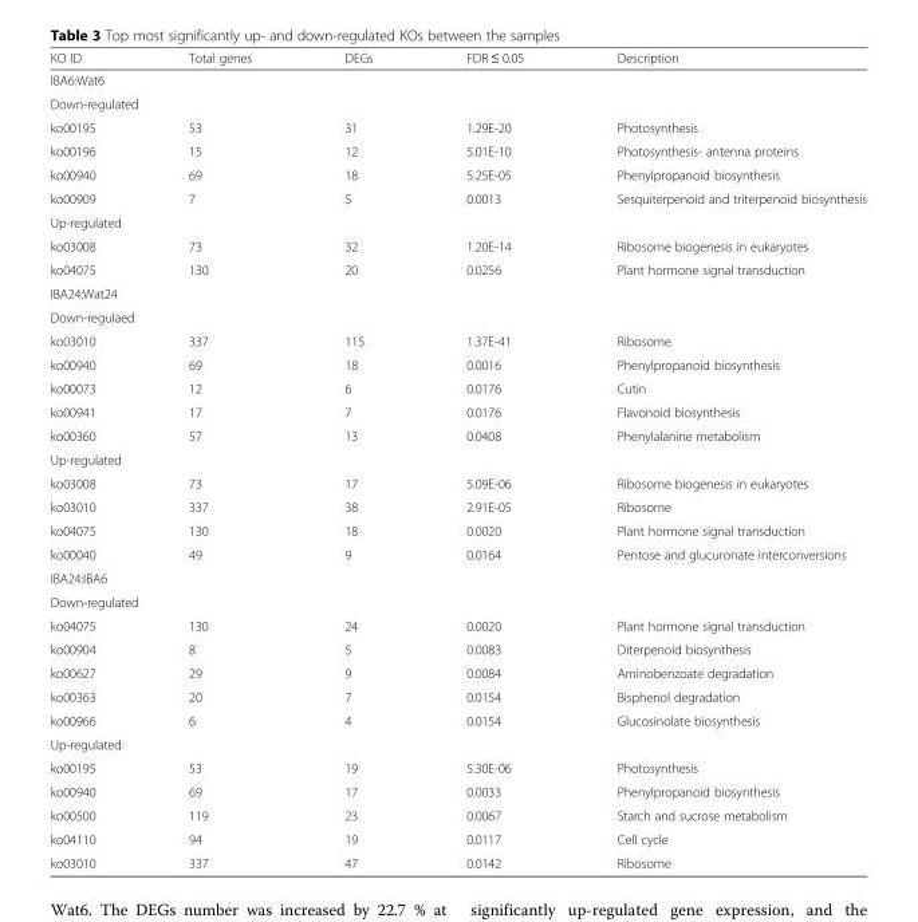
<table><thead><tr><td>KO ID</td><td>Total genes</td><td>DEGs</td><td>FDR ≤ 0.05</td><td>Description</td></tr></thead><tbody><tr><td colspan="5">IBA6:Wat6</td></tr><tr><td colspan="5">Down-regulated</td></tr><tr><td>ko00195</td><td>53</td><td>31</td><td>1.29E-20</td><td>Photosynthesis</td></tr><tr><td>ko00196</td><td>15</td><td>12</td><td>5.01E-10</td><td>Photosynthesis- antenna proteins</td></tr><tr><td>ko00940</td><td>69</td><td>18</td><td>5.25E-05</td><td>Phenylpropanoid biosynthesis</td></tr><tr><td>ko00909</td><td>7</td><td>5</td><td>0.0013</td><td>Sesquiterpenoid and triterpenoid biosynthesis</td></tr><tr><td colspan="5">Up-regulated</td></tr><tr><td>ko03008</td><td>73</td><td>32</td><td>1.20E-14</td><td>Ribosome biogenesis in eukaryotes</td></tr><tr><td>ko04075</td><td>130</td><td>20</td><td>0.0256</td><td>Plant hormone signal transduction</td></tr><tr><td colspan="5">IBA24:Wat24</td></tr><tr><td colspan="5">Down-regulaed</td></tr><tr><td>ko03010</td><td>337</td><td>115</td><td>1.37E-41</td><td>Ribosome</td></tr><tr><td>ko00940</td><td>69</td><td>18</td><td>0.0016</td><td>Phenylpropanoid biosynthesis</td></tr><tr><td>ko00073</td><td>12</td><td>6</td><td>0.0176</td><td>Cutin</td></tr><tr><td>ko00941</td><td>17</td><td>7</td><td>0.0176</td><td>Flavonoid biosynthesis</td></tr><tr><td>ko00360</td><td>57</td><td>13</td><td>0.0408</td><td>Phenylalanine metabolism</td></tr><tr><td colspan="5">Up-regulated</td></tr><tr><td>ko03008</td><td>73</td><td>17</td><td>5.09E-06</td><td>Ribosome biogenesis in eukaryotes</td></tr><tr><td>ko03010</td><td>337</td><td>38</td><td>2.91E-05</td><td>Ribosome</td></tr><tr><td>ko04075</td><td>130</td><td>18</td><td>0.0020</td><td>Plant hormone signal transduction</td></tr><tr><td>ko00040</td><td>49</td><td>9</td><td>0.0164</td><td>Pentose and glucuronate interconversions</td></tr><tr><td colspan="5">IBA24:IBA6</td></tr><tr><td colspan="5">Down-regulated</td></tr><tr><td>ko04075</td><td>130</td><td>24</td><td>0.0020</td><td>Plant hormone signal transduction</td></tr><tr><td>ko00904</td><td>8</td><td>5</td><td>0.0083</td><td>Diterpenoid biosynthesis</td></tr><tr><td>ko00627</td><td>29</td><td>9</td><td>0.0084</td><td>Aminobenzoate degradation</td></tr><tr><td>ko00363</td><td>20</td><td>7</td><td>0.0154</td><td>Bisphenol degradation</td></tr><tr><td>ko00966</td><td>6</td><td>4</td><td>0.0154</td><td>Glucosinolate biosynthesis</td></tr><tr><td colspan="5">Up-regulated</td></tr><tr><td>ko00195</td><td>53</td><td>19</td><td>5.30E-06</td><td>Photosynthesis</td></tr><tr><td>ko00940</td><td>69</td><td>17</td><td>0.0033</td><td>Phenylpropanoid biosynthesis</td></tr><tr><td>ko00500</td><td>119</td><td>23</td><td>0.0067</td><td>Starch and sucrose metabolism</td></tr><tr><td>ko04110</td><td>94</td><td>19</td><td>0.0117</td><td>Cell cycle</td></tr><tr><td>ko03010</td><td>337</td><td>47</td><td>0.0142</td><td>Ribosome</td></tr></tbody></table>